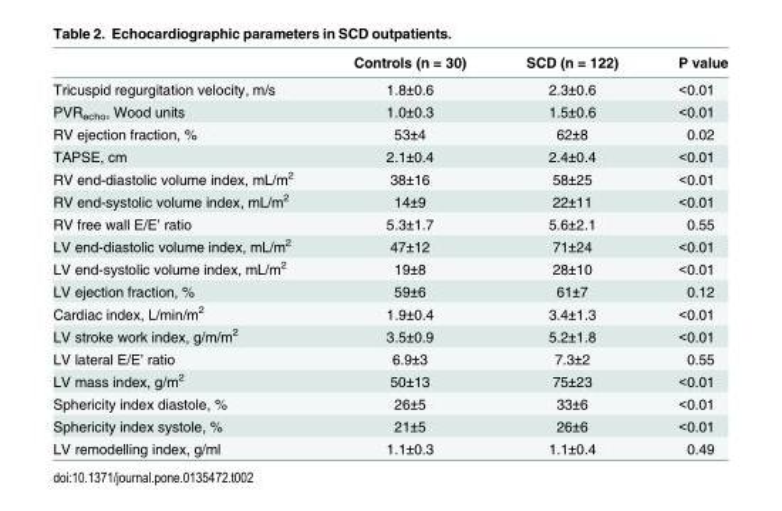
<table><thead><tr><td></td><td>Controls (n = 30)</td><td>SCD (n = 122)</td><td>P value</td></tr></thead><tbody><tr><td>Tricuspid regurgitation velocity, m/s</td><td>1.8±0.6</td><td>2.3±0.6</td><td>&lt;0.01</td></tr><tr><td>PVR<sub>echo</sub>, Wood units</td><td>1.0±0.3</td><td>1.5±0.6</td><td>&lt;0.01</td></tr><tr><td>RV ejection fraction, %</td><td>53±4</td><td>62±8</td><td>0.02</td></tr><tr><td>TAPSE, cm</td><td>2.1±0.4</td><td>2.4±0.4</td><td>&lt;0.01</td></tr><tr><td>RV end-diastolic volume index, mL/m<sup>2</sup></td><td>38±16</td><td>58±25</td><td>&lt;0.01</td></tr><tr><td>RV end-systolic volume index, mL/m<sup>2</sup></td><td>14±9</td><td>22±11</td><td>&lt;0.01</td></tr><tr><td>RV free wall E/E’ ratio</td><td>5.3±1.7</td><td>5.6±2.1</td><td>0.55</td></tr><tr><td>LV end-diastolic volume index, mL/m<sup>2</sup></td><td>47±12</td><td>71±24</td><td>&lt;0.01</td></tr><tr><td>LV end-systolic volume index, mL/m<sup>2</sup></td><td>19±8</td><td>28±10</td><td>&lt;0.01</td></tr><tr><td>LV ejection fraction, %</td><td>59±6</td><td>61±7</td><td>0.12</td></tr><tr><td>Cardiac index, L/min/m<sup>2</sup></td><td>1.9±0.4</td><td>3.4±1.3</td><td>&lt;0.01</td></tr><tr><td>LV stroke work index, g/m/m<sup>2</sup></td><td>3.5±0.9</td><td>5.2±1.8</td><td>&lt;0.01</td></tr><tr><td>LV lateral E/E’ ratio</td><td>6.9±3</td><td>7.3±2</td><td>0.55</td></tr><tr><td>LV mass index, g/m<sup>2</sup></td><td>50±13</td><td>75±23</td><td>&lt;0.01</td></tr><tr><td>Sphericity index diastole, %</td><td>26±5</td><td>33±6</td><td>&lt;0.01</td></tr><tr><td>Sphericity index systole, %</td><td>21±5</td><td>26±6</td><td>&lt;0.01</td></tr><tr><td>LV remodelling index, g/ml</td><td>1.1±0.3</td><td>1.1±0.4</td><td>0.49</td></tr></tbody></table>